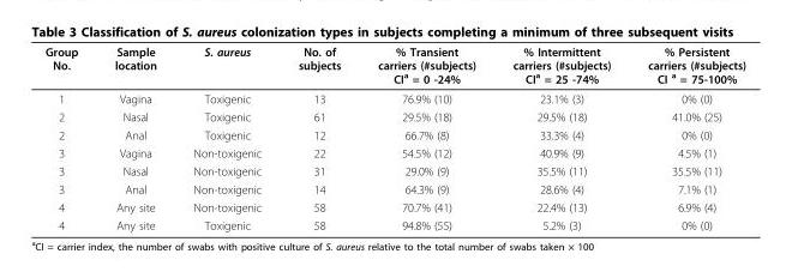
<table><thead><tr><td>Group No.</td><td>Sample location</td><td>S. aureus</td><td>No. of subjects</td><td>% Transient carriers (#subjects) CI<sup>a</sup> = 0 -24%</td><td>% Intermittent carriers (#subjects) CI<sup>a</sup> = 25 -74%</td><td>% Persistent carriers (#subjects) CI <sup>a</sup> = 75-100%</td></tr></thead><tbody><tr><td>1</td><td>Vagina</td><td>Toxigenic</td><td>13</td><td>76.9% (10)</td><td>23.1% (3)</td><td>0% (0)</td></tr><tr><td>2</td><td>Nasal</td><td>Toxigenic</td><td>61</td><td>29.5% (18)</td><td>29.5% (18)</td><td>41.0% (25)</td></tr><tr><td>2</td><td>Anal</td><td>Toxigenic</td><td>12</td><td>66.7% (8)</td><td>33.3% (4)</td><td>0% (0)</td></tr><tr><td>3</td><td>Vagina</td><td>Non-toxigenic</td><td>22</td><td>54.5% (12)</td><td>40.9% (9)</td><td>4.5% (1)</td></tr><tr><td>3</td><td>Nasal</td><td>Non-toxigenic</td><td>31</td><td>29.0% (9)</td><td>35.5% (11)</td><td>35.5% (11)</td></tr><tr><td>3</td><td>Anal</td><td>Non-toxigenic</td><td>14</td><td>64.3% (9)</td><td>28.6% (4)</td><td>7.1% (1)</td></tr><tr><td>4</td><td>Any site</td><td>Non-toxigenic</td><td>58</td><td>70.7% (41)</td><td>22.4% (13)</td><td>6.9% (4)</td></tr><tr><td>4</td><td>Any site</td><td>Toxigenic</td><td>58</td><td>94.8% (55)</td><td>5.2% (3)</td><td>0% (0)</td></tr></tbody></table>